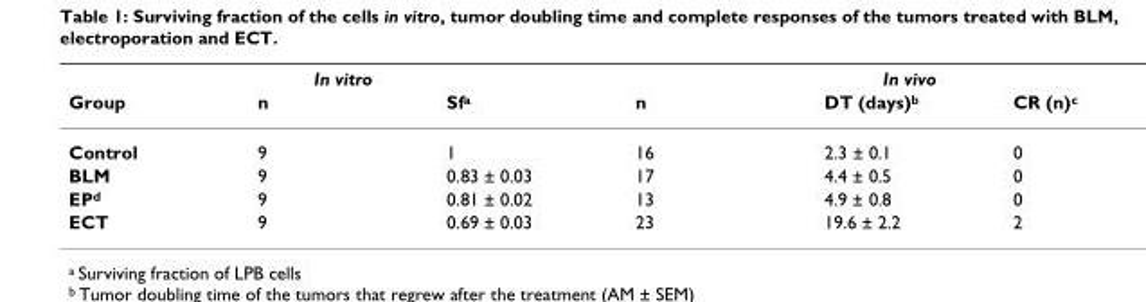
<table><thead><tr><td colspan="3">In vitro</td><td colspan="3">In vivo</td></tr><tr><td>Group</td><td>n</td><td>Sfa</td><td>n</td><td>DT (days)b</td><td>CR (n)c</td></tr></thead><tbody><tr><td>Control</td><td>9</td><td>1</td><td>16</td><td>2.3 ± 0.1</td><td>0</td></tr><tr><td>BLM</td><td>9</td><td>0.83 ± 0.03</td><td>17</td><td>4.4 ± 0.5</td><td>0</td></tr><tr><td>EPd</td><td>9</td><td>0.81 ± 0.02</td><td>13</td><td>4.9 ± 0.8</td><td>0</td></tr><tr><td>ECT</td><td>9</td><td>0.69 ± 0.03</td><td>23</td><td>19.6 ± 2.2</td><td>2</td></tr></tbody></table>